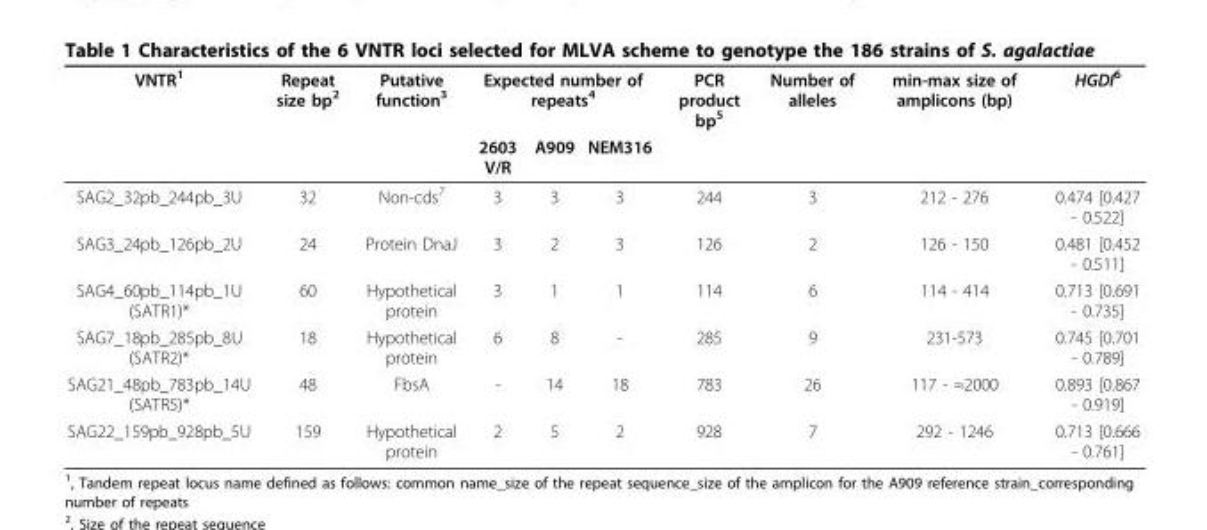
<table><thead><tr><td rowspan="2">VNTR<sup>1</sup></td><td rowspan="2">Repeat size bp<sup>2</sup></td><td rowspan="2">Putative function<sup>3</sup></td><td colspan="3">Expected number of repeats<sup>4</sup></td><td rowspan="2">PCR product bp<sup>5</sup></td><td rowspan="2">Number of alleles</td><td rowspan="2">min-max size of amplicons (bp)</td><td rowspan="2">HGDI<sup>6</sup></td></tr><tr><td>2603 V/R</td><td>A909</td><td>NEM316</td></tr></thead><tbody><tr><td>SAG2_32pb_244pb_3U</td><td>32</td><td>Non-cds<sup>7</sup></td><td>3</td><td>3</td><td>3</td><td>244</td><td>3</td><td>212 - 276</td><td>0.474 [0.427 - 0.522]</td></tr><tr><td>SAG3_24pb_126pb_2U</td><td>24</td><td>Protein DnaJ</td><td>3</td><td>2</td><td>3</td><td>126</td><td>2</td><td>126 - 150</td><td>0.481 [0.452 - 0.511]</td></tr><tr><td>SAG4_60pb_114pb_1U (SATR1)*</td><td>60</td><td>Hypothetical protein</td><td>3</td><td>1</td><td>1</td><td>114</td><td>6</td><td>114 - 414</td><td>0.713 [0.691 - 0.735]</td></tr><tr><td>SAG7_18pb_285pb_8U (SATR2)*</td><td>18</td><td>Hypothetical protein</td><td>6</td><td>8</td><td>-</td><td>285</td><td>9</td><td>231-573</td><td>0.745 [0.701 - 0.789]</td></tr><tr><td>SAG21_48pb_783pb_14U (SATR5)*</td><td>48</td><td>FbsA</td><td>-</td><td>14</td><td>18</td><td>783</td><td>26</td><td>117 - ≈2000</td><td>0.893 [0.867 - 0.919]</td></tr><tr><td>SAG22_159pb_928pb_5U</td><td>159</td><td>Hypothetical protein</td><td>2</td><td>5</td><td>2</td><td>928</td><td>7</td><td>292 - 1246</td><td>0.713 [0.666 - 0.761]</td></tr></tbody></table>